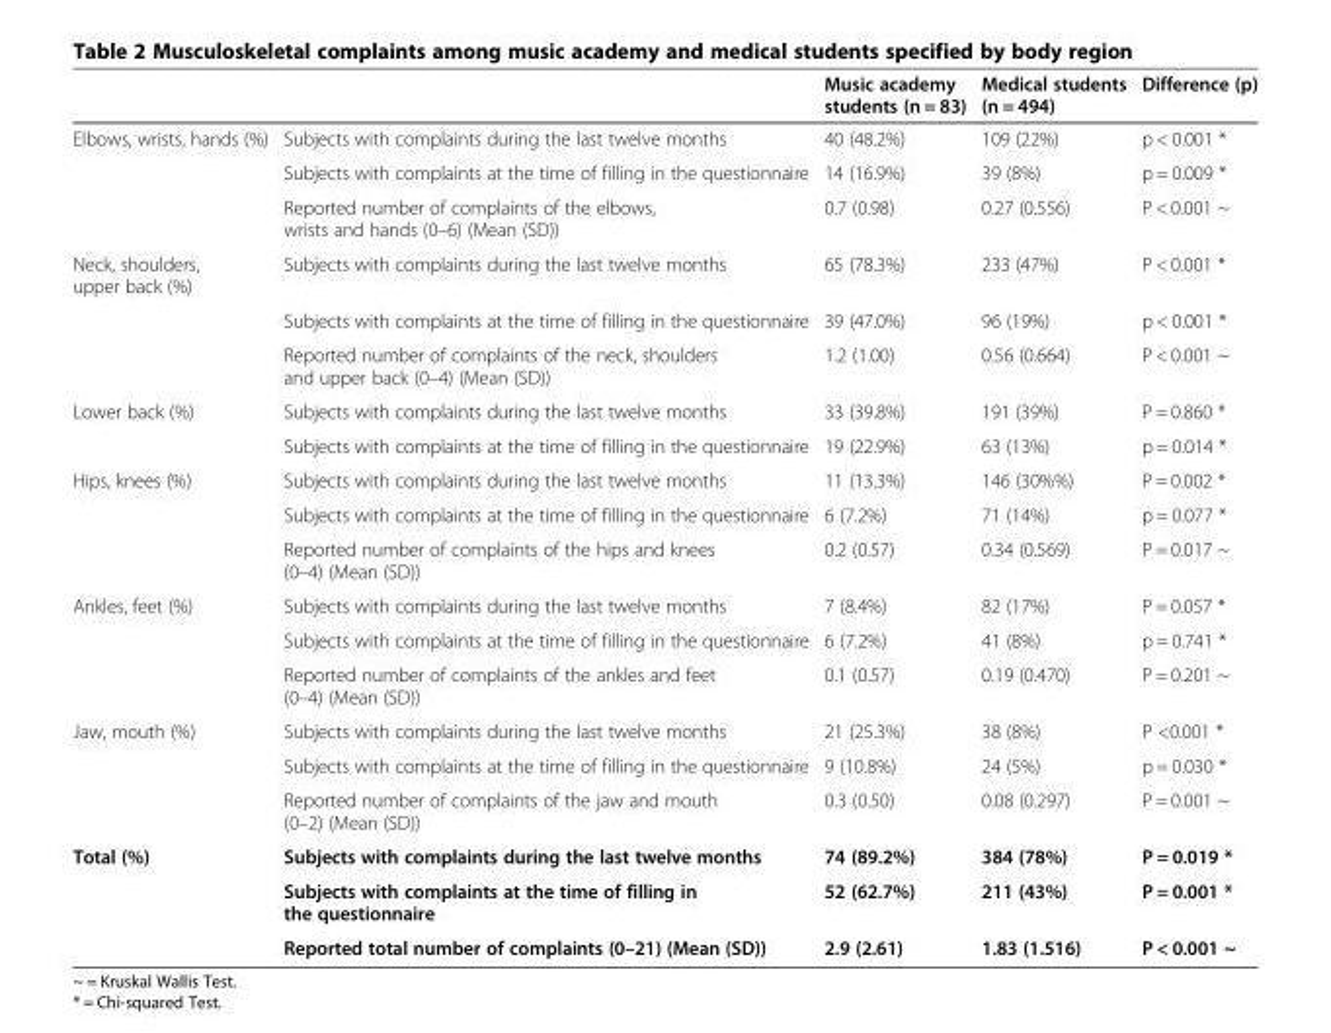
<table><thead><tr><td></td><td></td><td>Music academy students (n = 83)</td><td>Medical students (n = 494)</td><td>Difference (p)</td></tr></thead><tbody><tr><td rowspan="3">Elbows, wrists, hands (%)</td><td>Subjects with complaints during the last twelve months</td><td>40 (48.2%)</td><td>109 (22%)</td><td>p &lt; 0.001 *</td></tr><tr><td>Subjects with complaints at the time of filling in the questionnaire</td><td>14 (16.9%)</td><td>39 (8%)</td><td>p = 0.009 *</td></tr><tr><td>Reported number of complaints of the elbows, wrists and hands (0–6) (Mean (SD))</td><td>0.7 (0.98)</td><td>0.27 (0.556)</td><td>P &lt; 0.001 ~</td></tr><tr><td rowspan="3">Neck, shoulders, upper back (%)</td><td>Subjects with complaints during the last twelve months</td><td>65 (78.3%)</td><td>233 (47%)</td><td>P &lt; 0.001 *</td></tr><tr><td>Subjects with complaints at the time of filling in the questionnaire</td><td>39 (47.0%)</td><td>96 (19%)</td><td>p &lt; 0.001 *</td></tr><tr><td>Reported number of complaints of the neck, shoulders and upper back (0–4) (Mean (SD))</td><td>1.2 (1.00)</td><td>0.56 (0.664)</td><td>P &lt; 0.001 ~</td></tr><tr><td rowspan="2">Lower back (%)</td><td>Subjects with complaints during the last twelve months</td><td>33 (39.8%)</td><td>191 (39%)</td><td>P = 0.860 *</td></tr><tr><td>Subjects with complaints at the time of filling in the questionnaire</td><td>19 (22.9%)</td><td>63 (13%)</td><td>p = 0.014 *</td></tr><tr><td rowspan="3">Hips, knees (%)</td><td>Subjects with complaints during the last twelve months</td><td>11 (13.3%)</td><td>146 (30%%)</td><td>P = 0.002 *</td></tr><tr><td>Subjects with complaints at the time of filling in the questionnaire</td><td>6 (7.2%)</td><td>71 (14%)</td><td>p = 0.077 *</td></tr><tr><td>Reported number of complaints of the hips and knees (0–4) (Mean (SD))</td><td>0.2 (0.57)</td><td>0.34 (0.569)</td><td>P = 0.017 ~</td></tr><tr><td rowspan="3">Ankles, feet (%)</td><td>Subjects with complaints during the last twelve months</td><td>7 (8.4%)</td><td>82 (17%)</td><td>P = 0.057 *</td></tr><tr><td>Subjects with complaints at the time of filling in the questionnaire</td><td>6 (7.2%)</td><td>41 (8%)</td><td>p = 0.741 *</td></tr><tr><td>Reported number of complaints of the ankles and feet (0–4) (Mean (SD))</td><td>0.1 (0.57)</td><td>0.19 (0.470)</td><td>P = 0.201 ~</td></tr><tr><td rowspan="3">Jaw, mouth (%)</td><td>Subjects with complaints during the last twelve months</td><td>21 (25.3%)</td><td>38 (8%)</td><td>P &lt;0.001 *</td></tr><tr><td>Subjects with complaints at the time of filling in the questionnaire</td><td>9 (10.8%)</td><td>24 (5%)</td><td>p = 0.030 *</td></tr><tr><td>Reported number of complaints of the jaw and mouth (0–2) (Mean (SD))</td><td>0.3 (0.50)</td><td>0.08 (0.297)</td><td>P = 0.001 ~</td></tr><tr><td rowspan="3">Total (%)</td><td>Subjects with complaints during the last twelve months</td><td>74 (89.2%)</td><td>384 (78%)</td><td>P = 0.019 *</td></tr><tr><td>Subjects with complaints at the time of filling in the questionnaire</td><td>52 (62.7%)</td><td>211 (43%)</td><td>P = 0.001 *</td></tr><tr><td>Reported total number of complaints (0–21) (Mean (SD))</td><td>2.9 (2.61)</td><td>1.83 (1.516)</td><td>P &lt; 0.001 ~</td></tr></tbody></table>